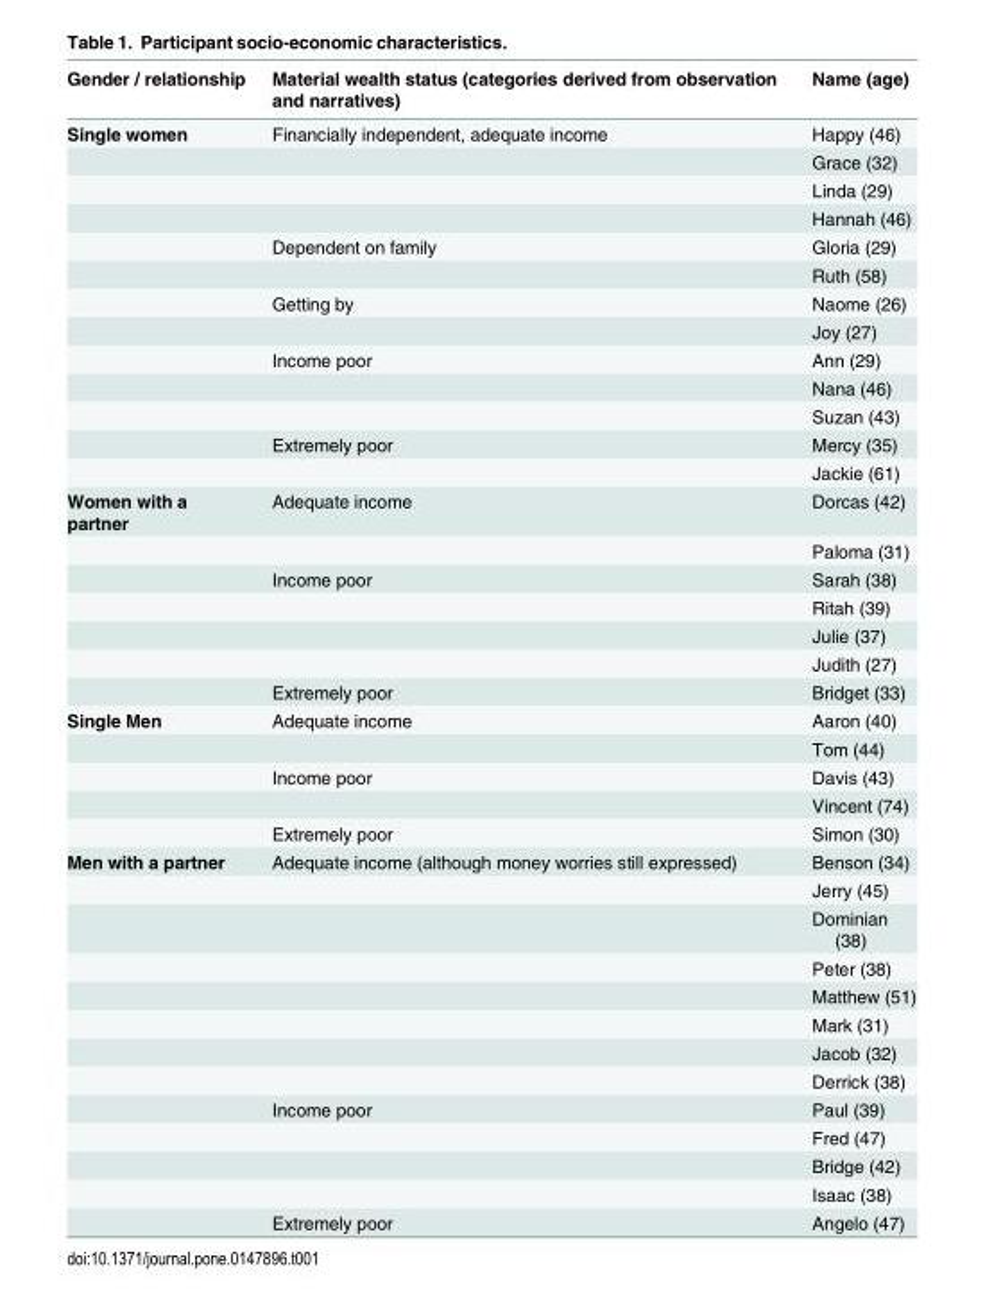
<table><thead><tr><td>Gender / relationship</td><td>Material wealth status (categories derived from observation and narratives)</td><td>Name (age)</td></tr></thead><tbody><tr><td rowspan="13">Single women</td><td>Financially independent, adequate income</td><td>Happy (46)</td></tr><tr><td></td><td>Grace (32)</td></tr><tr><td></td><td>Linda (29)</td></tr><tr><td></td><td>Hannah (46)</td></tr><tr><td>Dependent on family</td><td>Gloria (29)</td></tr><tr><td></td><td>Ruth (58)</td></tr><tr><td>Getting by</td><td>Naome (26)</td></tr><tr><td></td><td>Joy (27)</td></tr><tr><td>Income poor</td><td>Ann (29)</td></tr><tr><td></td><td>Nana (46)</td></tr><tr><td></td><td>Suzan (43)</td></tr><tr><td>Extremely poor</td><td>Mercy (35)</td></tr><tr><td></td><td>Jackie (61)</td></tr><tr><td rowspan="7">Women with a partner</td><td>Adequate income</td><td>Dorcas (42)</td></tr><tr><td></td><td>Paloma (31)</td></tr><tr><td>Income poor</td><td>Sarah (38)</td></tr><tr><td></td><td>Ritah (39)</td></tr><tr><td></td><td>Julie (37)</td></tr><tr><td></td><td>Judith (27)</td></tr><tr><td>Extremely poor</td><td>Bridget (33)</td></tr><tr><td rowspan="5">Single Men</td><td>Adequate income</td><td>Aaron (40)</td></tr><tr><td></td><td>Tom (44)</td></tr><tr><td>Income poor</td><td>Davis (43)</td></tr><tr><td></td><td>Vincent (74)</td></tr><tr><td>Extremely poor</td><td>Simon (30)</td></tr><tr><td rowspan="13">Men with a partner</td><td>Adequate income (although money worries still expressed)</td><td>Benson (34)</td></tr><tr><td></td><td>Jerry (45)</td></tr><tr><td></td><td>Dominian (38)</td></tr><tr><td></td><td>Peter (38)</td></tr><tr><td></td><td>Matthew (51)</td></tr><tr><td></td><td>Mark (31)</td></tr><tr><td></td><td>Jacob (32)</td></tr><tr><td></td><td>Derrick (38)</td></tr><tr><td>Income poor</td><td>Paul (39)</td></tr><tr><td></td><td>Fred (47)</td></tr><tr><td></td><td>Bridge (42)</td></tr><tr><td></td><td>Isaac (38)</td></tr><tr><td>Extremely poor</td><td>Angelo (47)</td></tr></tbody></table>